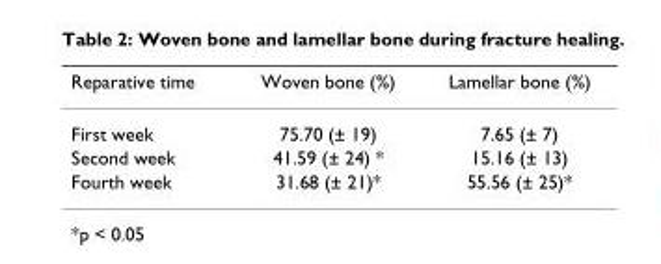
<table><thead><tr><td>Reparative time</td><td>Woven bone (%)</td><td>Lamellar bone (%)</td></tr></thead><tbody><tr><td>First week</td><td>75.70 (± 19)</td><td>7.65 (± 7)</td></tr><tr><td>Second week</td><td>41.59 (± 24) *</td><td>15.16 (± 13)</td></tr><tr><td>Fourth week</td><td>31.68 (± 21)*</td><td>55.56 (± 25)*</td></tr></tbody></table>